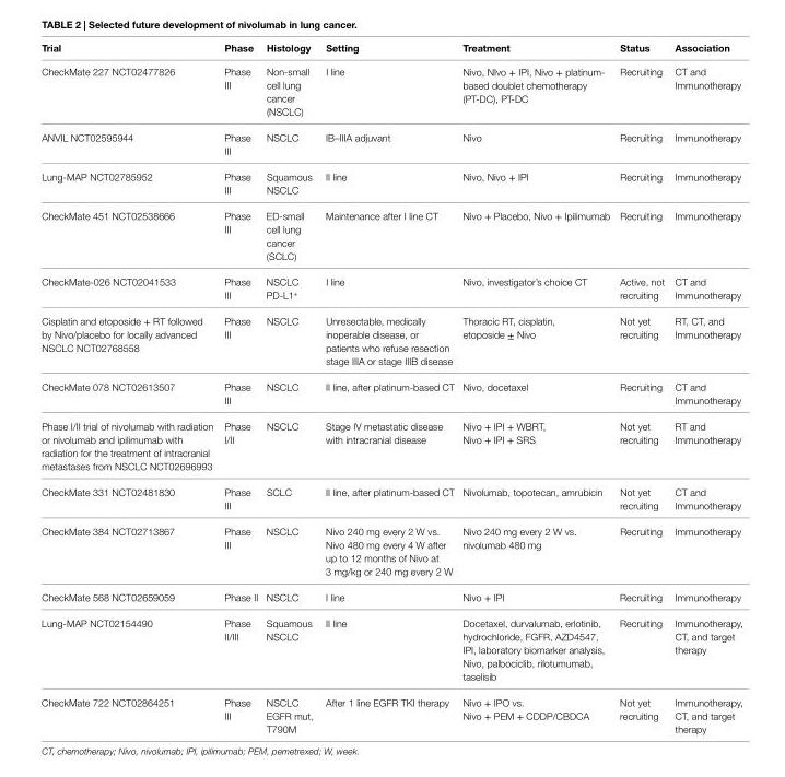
<table><thead><tr><td>Trial</td><td>Phase</td><td>Histology</td><td>Setting</td><td>Treatment</td><td>Status</td><td>Association</td></tr></thead><tbody><tr><td>CheckMate 227 NCT02477826</td><td>Phase III</td><td>Non-small cell lung cancer (NSCLC)</td><td>I line</td><td>Nivo, NIvo + IPI, Nivo + platinum- based doublet chemotherapy (PT-DC), PT-DC</td><td>Recruiting</td><td>CT and Immunotherapy</td></tr><tr><td>ANVIL NCT02595944</td><td>Phase III</td><td>NSCLC</td><td>IB–IIIA adjuvant</td><td>Nivo</td><td>Recruiting</td><td>Immunotherapy</td></tr><tr><td>Lung-MAP NCT02785952</td><td>Phase III</td><td>Squamous NSCLC</td><td>II line</td><td>Nivo, Nivo + IPI</td><td>Recruiting</td><td>Immunotherapy</td></tr><tr><td>CheckMate 451 NCT02538666</td><td>Phase III</td><td>ED-small cell lung cancer (SCLC)</td><td>Maintenance after I line CT</td><td>Nivo + Placebo, Nivo + Ipilimumab</td><td>Recruiting</td><td>Immunotherapy</td></tr><tr><td>CheckMate-026 NCT02041533</td><td>Phase III</td><td>NSCLC PD-L1<sup>+</sup></td><td>I line</td><td>Nivo, investigator’s choice CT</td><td>Active, not recruiting</td><td>CT and Immunotherapy</td></tr><tr><td>Cisplatin and etoposide + RT followed by Nivo/placebo for locally advanced NSCLC NCT02768558</td><td>Phase III</td><td>NSCLC</td><td>Unresectable, medically inoperable disease, or patients who refuse resection stage IIIA or stage IIIB disease</td><td>Thoracic RT, cisplatin, etoposide ± Nivo</td><td>Not yet recruiting</td><td>RT, CT, and Immunotherapy</td></tr><tr><td>CheckMate 078 NCT02613507</td><td>Phase III</td><td>NSCLC</td><td>II line, after platinum-based CT</td><td>Nivo, docetaxel</td><td>Recruiting</td><td>CT and Immunotherapy</td></tr><tr><td>Phase I/II trial of nivolumab with radiation or nivolumab and ipilimumab with radiation for the treatment of intracranial metastases from NSCLC NCT02696993</td><td>Phase I/II</td><td>NSCLC</td><td>Stage IV metastatic disease with intracranial disease</td><td>Nivo + IPI + WBRT, Nivo + IPI + SRS</td><td>Not yet recruiting</td><td>RT and Immunotherapy</td></tr><tr><td>CheckMate 331 NCT02481830</td><td>Phase III</td><td>SCLC</td><td>II line, after platinum-based CT</td><td>Nivolumab, topotecan, amrubicin</td><td>Not yet recruiting</td><td>CT and Immunotherapy</td></tr><tr><td>CheckMate 384 NCT02713867</td><td>Phase III</td><td>NSCLC</td><td>Nivo 240 mg every 2 W vs. Nivo 480 mg every 4 W after up to 12 months of Nivo at 3 mg/kg or 240 mg every 2 W</td><td>Nivo 240 mg every 2 W vs. nivolumab 480 mg</td><td>Recruiting</td><td>Immunotherapy</td></tr><tr><td>CheckMate 568 NCT02659059</td><td>Phase II</td><td>NSCLC</td><td>I line</td><td>Nivo + IPI</td><td>Recruiting</td><td>Immunotherapy</td></tr><tr><td>Lung-MAP NCT02154490</td><td>Phase II/III</td><td>Squamous NSCLC</td><td>II line</td><td>Docetaxel, durvalumab, erlotinib, hydrochloride, FGFR, AZD4547, IPI, laboratory biomarker analysis, Nivo, palbociclib, rilotumumab, taselisib</td><td>Recruiting</td><td>Immunotherapy, CT, and target therapy</td></tr><tr><td>CheckMate 722 NCT02864251</td><td>Phase III</td><td>NSCLC EGFR mut, T790M</td><td>After 1 line EGFR TKI therapy</td><td>Nivo + IPO vs. Nivo + PEM + CDDP/CBDCA</td><td>Not yet recruiting</td><td>Immunotherapy, CT, and target therapy</td></tr></tbody></table>